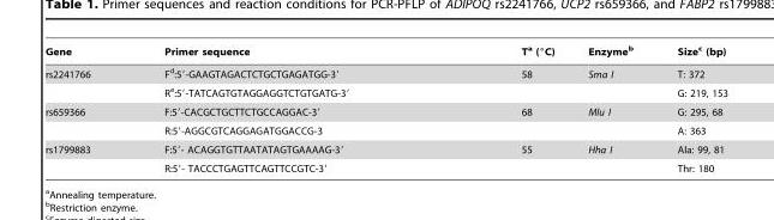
<table><thead><tr><td>Gene</td><td>Primer sequence</td><td>T<sup>a</sup> (°C)</td><td>Enzyme<sup>b</sup></td><td>Size<sup>c</sup> (bp)</td></tr></thead><tbody><tr><td rowspan="2">rs2241766</td><td>F<sup>d</sup>:5′-GAAGTAGACTCTGCTGAGATGG-3′</td><td>58</td><td>Sma I</td><td>T: 372</td></tr><tr><td>R<sup>e</sup>:5′-TATCAGTGTAGGAGGTCTGTGATG-3′</td><td></td><td></td><td>G: 219, 153</td></tr><tr><td rowspan="2">rs659366</td><td>F:5′-CACGCTGCTTCTGCCAGGAC-3′</td><td>68</td><td>Mlu I</td><td>G: 295, 68</td></tr><tr><td>R:5′-AGGCGTCAGGAGATGGACCG-3</td><td></td><td></td><td>A: 363</td></tr><tr><td rowspan="2">rs1799883</td><td>F:5′- ACAGGTGTTAATATAGTGAAAAG-3′</td><td>55</td><td>Hha I</td><td>Ala: 99, 81</td></tr><tr><td>R:5′- TACCCTGAGTTCAGTTCCGTC-3′</td><td></td><td></td><td>Thr: 180</td></tr></tbody></table>